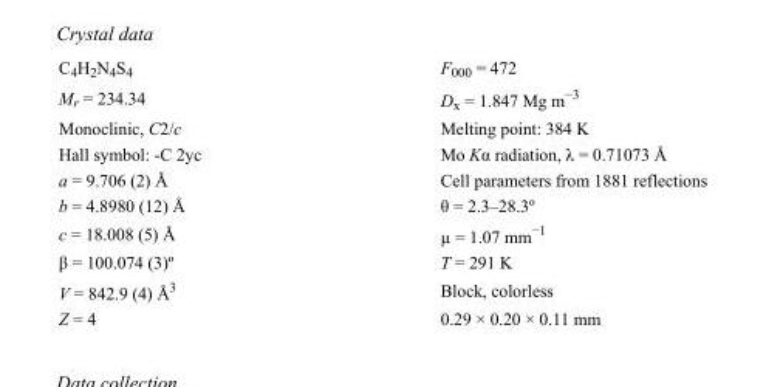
<table><tbody><tr><td>C<sub>4</sub>H<sub>2</sub>N<sub>4</sub>S<sub>4</sub></td><td>F000 = 472</td></tr><tr><td>M<sub>r</sub> = 234.34</td><td>D<sub>x</sub> = 1.847 Mg m<sup>−3</sup></td></tr><tr><td>Monoclinic, C2/c</td><td>Melting point: 384 K</td></tr><tr><td>Hall symbol: -C 2yc</td><td>Mo Kα radiation, λ = 0.71073 Å</td></tr><tr><td>a = 9.706 (2) Å</td><td>Cell parameters from 1881 reflections</td></tr><tr><td>b = 4.8980 (12) Å</td><td>θ = 2.3–28.3º</td></tr><tr><td>c = 18.008 (5) Å</td><td>µ = 1.07 mm<sup>−1</sup></td></tr><tr><td>β = 100.074 (3)º</td><td>T = 291 K</td></tr><tr><td>V = 842.9 (4) Å<sup>3</sup></td><td>Block, colorless</td></tr><tr><td>Z = 4</td><td>0.29 × 0.20 × 0.11 mm</td></tr></tbody></table>